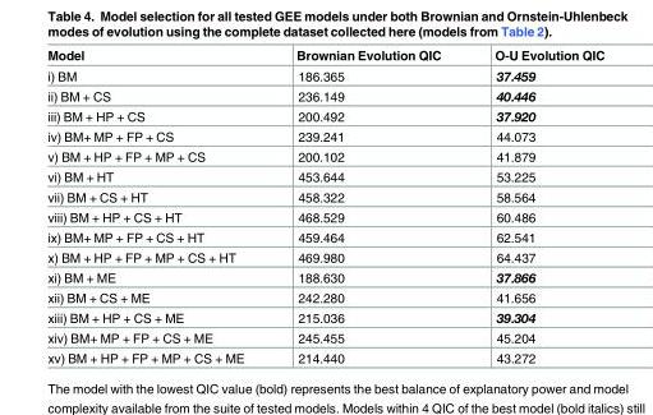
<table><thead><tr><td>Model</td><td>Brownian Evolution QIC</td><td>O-U Evolution QIC</td></tr></thead><tbody><tr><td>i) BM</td><td>186.365</td><td>37.459</td></tr><tr><td>ii) BM + CS</td><td>236.149</td><td>40.446</td></tr><tr><td>iii) BM + HP + CS</td><td>200.492</td><td>37.920</td></tr><tr><td>iv) BM+ MP + FP + CS</td><td>239.241</td><td>44.073</td></tr><tr><td>v) BM + HP + FP + MP + CS</td><td>200.102</td><td>41.879</td></tr><tr><td>vi) BM + HT</td><td>453.644</td><td>53.225</td></tr><tr><td>vii) BM + CS + HT</td><td>458.322</td><td>58.564</td></tr><tr><td>viii) BM + HP + CS + HT</td><td>468.529</td><td>60.486</td></tr><tr><td>ix) BM+ MP + FP + CS + HT</td><td>459.464</td><td>62.541</td></tr><tr><td>x) BM + HP + FP + MP + CS + HT</td><td>469.980</td><td>64.437</td></tr><tr><td>xi) BM + ME</td><td>188.630</td><td>37.866</td></tr><tr><td>xii) BM + CS + ME</td><td>242.280</td><td>41.656</td></tr><tr><td>xiii) BM + HP + CS + ME</td><td>215.036</td><td>39.304</td></tr><tr><td>xiv) BM+ MP + FP + CS + ME</td><td>245.455</td><td>45.204</td></tr><tr><td>xv) BM + HP + FP + MP + CS + ME</td><td>214.440</td><td>43.272</td></tr></tbody></table>